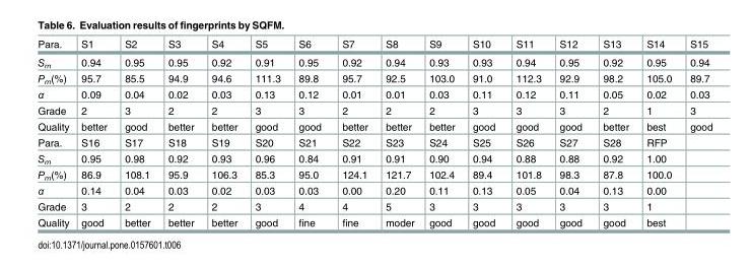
<table><thead><tr><td>Para.</td><td>S1</td><td>S2</td><td>S3</td><td>S4</td><td>S5</td><td>S6</td><td>S7</td><td>S8</td><td>S9</td><td>S10</td><td>S11</td><td>S12</td><td>S13</td><td>S14</td><td>S15</td></tr></thead><tbody><tr><td>S<sub>m</sub></td><td>0.94</td><td>0.95</td><td>0.95</td><td>0.92</td><td>0.91</td><td>0.95</td><td>0.92</td><td>0.94</td><td>0.93</td><td>0.93</td><td>0.94</td><td>0.95</td><td>0.92</td><td>0.95</td><td>0.94</td></tr><tr><td>P<sub>m</sub>(%)</td><td>95.7</td><td>85.5</td><td>94.9</td><td>94.6</td><td>111.3</td><td>89.8</td><td>95.7</td><td>92.5</td><td>103.0</td><td>91.0</td><td>112.3</td><td>92.9</td><td>98.2</td><td>105.0</td><td>89.7</td></tr><tr><td>α</td><td>0.09</td><td>0.04</td><td>0.02</td><td>0.03</td><td>0.13</td><td>0.12</td><td>0.01</td><td>0.01</td><td>0.03</td><td>0.11</td><td>0.12</td><td>0.11</td><td>0.05</td><td>0.02</td><td>0.03</td></tr><tr><td>Grade</td><td>2</td><td>3</td><td>2</td><td>2</td><td>3</td><td>3</td><td>2</td><td>2</td><td>2</td><td>3</td><td>3</td><td>3</td><td>2</td><td>1</td><td>3</td></tr><tr><td>Quality</td><td>better</td><td>good</td><td>better</td><td>better</td><td>good</td><td>good</td><td>better</td><td>better</td><td>better</td><td>good</td><td>good</td><td>good</td><td>better</td><td>best</td><td>good</td></tr><tr><td>Para.</td><td>S16</td><td>S17</td><td>S18</td><td>S19</td><td>S20</td><td>S21</td><td>S22</td><td>S23</td><td>S24</td><td>S25</td><td>S26</td><td>S27</td><td>S28</td><td>RFP</td><td></td></tr><tr><td>S<sub>m</sub></td><td>0.95</td><td>0.98</td><td>0.92</td><td>0.93</td><td>0.96</td><td>0.84</td><td>0.91</td><td>0.91</td><td>0.90</td><td>0.94</td><td>0.88</td><td>0.88</td><td>0.92</td><td>1.00</td><td></td></tr><tr><td>P<sub>m</sub>(%)</td><td>86.9</td><td>108.1</td><td>95.9</td><td>106.3</td><td>85.3</td><td>95.0</td><td>124.1</td><td>121.7</td><td>102.4</td><td>89.4</td><td>101.8</td><td>98.3</td><td>87.8</td><td>100.0</td><td></td></tr><tr><td>α</td><td>0.14</td><td>0.04</td><td>0.03</td><td>0.02</td><td>0.03</td><td>0.03</td><td>0.00</td><td>0.20</td><td>0.11</td><td>0.13</td><td>0.05</td><td>0.04</td><td>0.13</td><td>0.00</td><td></td></tr><tr><td>Grade</td><td>3</td><td>2</td><td>2</td><td>2</td><td>3</td><td>4</td><td>4</td><td>5</td><td>3</td><td>3</td><td>3</td><td>3</td><td>3</td><td>1</td><td></td></tr><tr><td>Quality</td><td>good</td><td>better</td><td>better</td><td>better</td><td>good</td><td>fine</td><td>fine</td><td>moder</td><td>good</td><td>good</td><td>good</td><td>good</td><td>good</td><td>best</td><td></td></tr></tbody></table>